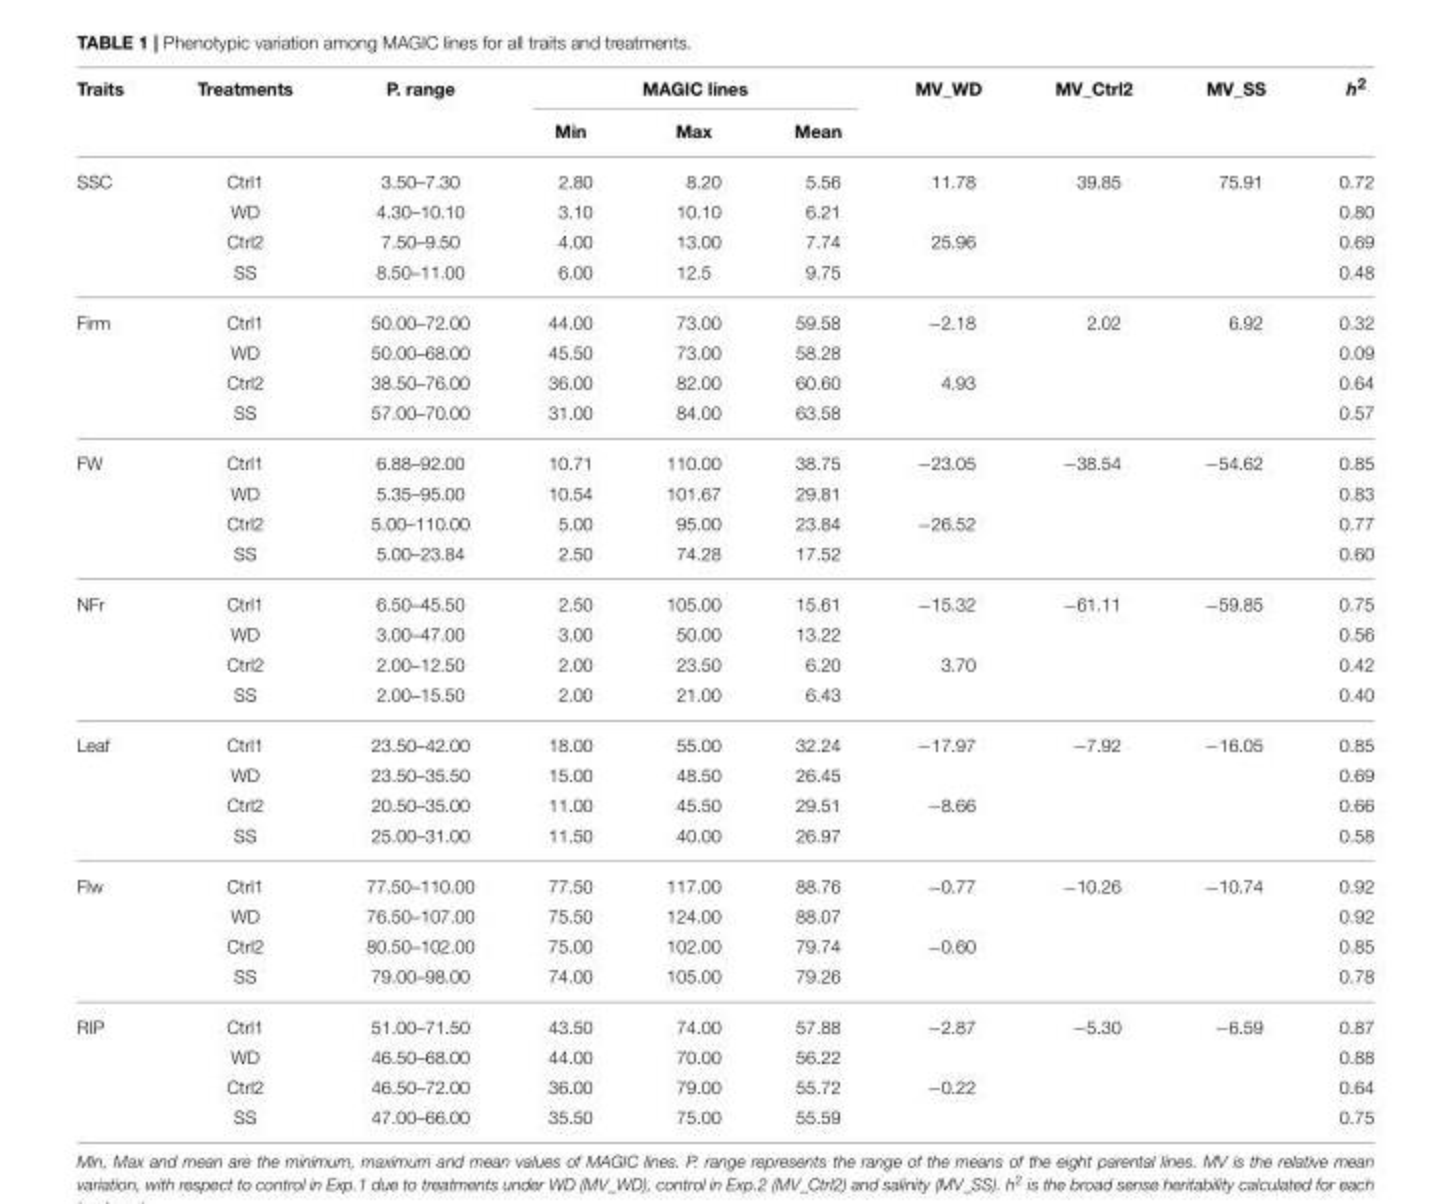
<table><thead><tr><td rowspan="2">Traits</td><td rowspan="2">Treatments</td><td rowspan="2">P. range</td><td colspan="3">MAGIC lines</td><td rowspan="2">MV_WD</td><td rowspan="2">MV_Ctrl2</td><td rowspan="2">MV_SS</td><td rowspan="2">h<sup>2</sup></td></tr><tr><td>Min</td><td>Max</td><td>Mean</td></tr></thead><tbody><tr><td rowspan="4">SSC</td><td>Ctrl1</td><td>3.50–7.30</td><td>2.80</td><td>8.20</td><td>5.56</td><td>11.78</td><td>39.85</td><td>75.91</td><td>0.72</td></tr><tr><td>WD</td><td>4.30–10.10</td><td>3.10</td><td>10.10</td><td>6.21</td><td></td><td></td><td></td><td>0.80</td></tr><tr><td>Ctrl2</td><td>7.50–9.50</td><td>4.00</td><td>13.00</td><td>7.74</td><td>25.96</td><td></td><td></td><td>0.69</td></tr><tr><td>SS</td><td>8.50–11.00</td><td>6.00</td><td>12.5</td><td>9.75</td><td></td><td></td><td></td><td>0.48</td></tr><tr><td rowspan="4">Firm</td><td>Ctrl1</td><td>50.00–72.00</td><td>44.00</td><td>73.00</td><td>59.58</td><td>−2.18</td><td>2.02</td><td>6.92</td><td>0.32</td></tr><tr><td>WD</td><td>50.00–68.00</td><td>45.50</td><td>73.00</td><td>58.28</td><td></td><td></td><td></td><td>0.09</td></tr><tr><td>Ctrl2</td><td>38.50–76.00</td><td>36.00</td><td>82.00</td><td>60.60</td><td>4.93</td><td></td><td></td><td>0.64</td></tr><tr><td>SS</td><td>57.00–70.00</td><td>31.00</td><td>84.00</td><td>63.58</td><td></td><td></td><td></td><td>0.57</td></tr><tr><td rowspan="4">FW</td><td>Ctrl1</td><td>6.88–92.00</td><td>10.71</td><td>110.00</td><td>38.75</td><td>−23.05</td><td>−38.54</td><td>−54.62</td><td>0.85</td></tr><tr><td>WD</td><td>5.35–95.00</td><td>10.54</td><td>101.67</td><td>29.81</td><td></td><td></td><td></td><td>0.83</td></tr><tr><td>Ctrl2</td><td>5.00–110.00</td><td>5.00</td><td>95.00</td><td>23.84</td><td>−26.52</td><td></td><td></td><td>0.77</td></tr><tr><td>SS</td><td>5.00–23.84</td><td>2.50</td><td>74.28</td><td>17.52</td><td></td><td></td><td></td><td>0.60</td></tr><tr><td rowspan="4">NFr</td><td>Ctrl1</td><td>6.50–45.50</td><td>2.50</td><td>105.00</td><td>15.61</td><td>−15.32</td><td>−61.11</td><td>−59.85</td><td>0.75</td></tr><tr><td>WD</td><td>3.00–47.00</td><td>3.00</td><td>50.00</td><td>13.22</td><td></td><td></td><td></td><td>0.56</td></tr><tr><td>Ctrl2</td><td>2.00–12.50</td><td>2.00</td><td>23.50</td><td>6.20</td><td>3.70</td><td></td><td></td><td>0.42</td></tr><tr><td>SS</td><td>2.00–15.50</td><td>2.00</td><td>21.00</td><td>6.43</td><td></td><td></td><td></td><td>0.40</td></tr><tr><td rowspan="4">Leaf</td><td>Ctrl1</td><td>23.50–42.00</td><td>18.00</td><td>55.00</td><td>32.24</td><td>−17.97</td><td>−7.92</td><td>−16.05</td><td>0.85</td></tr><tr><td>WD</td><td>23.50–35.50</td><td>15.00</td><td>48.50</td><td>26.45</td><td></td><td></td><td></td><td>0.69</td></tr><tr><td>Ctrl2</td><td>20.50–35.00</td><td>11.00</td><td>45.50</td><td>29.51</td><td>−8.66</td><td></td><td></td><td>0.66</td></tr><tr><td>SS</td><td>25.00–31.00</td><td>11.50</td><td>40.00</td><td>26.97</td><td></td><td></td><td></td><td>0.58</td></tr><tr><td rowspan="4">Flw</td><td>Ctrl1</td><td>77.50–110.00</td><td>77.50</td><td>117.00</td><td>88.76</td><td>−0.77</td><td>−10.26</td><td>−10.74</td><td>0.92</td></tr><tr><td>WD</td><td>76.50–107.00</td><td>75.50</td><td>124.00</td><td>88.07</td><td></td><td></td><td></td><td>0.92</td></tr><tr><td>Ctrl2</td><td>80.50–102.00</td><td>75.00</td><td>102.00</td><td>79.74</td><td>−0.60</td><td></td><td></td><td>0.85</td></tr><tr><td>SS</td><td>79.00–98.00</td><td>74.00</td><td>105.00</td><td>79.26</td><td></td><td></td><td></td><td>0.78</td></tr><tr><td rowspan="4">RIP</td><td>Ctrl1</td><td>51.00–71.50</td><td>43.50</td><td>74.00</td><td>57.88</td><td>−2.87</td><td>−5.30</td><td>−6.59</td><td>0.87</td></tr><tr><td>WD</td><td>46.50–68.00</td><td>44.00</td><td>70.00</td><td>56.22</td><td></td><td></td><td></td><td>0.88</td></tr><tr><td>Ctrl2</td><td>46.50–72.00</td><td>36.00</td><td>79.00</td><td>55.72</td><td>−0.22</td><td></td><td></td><td>0.64</td></tr><tr><td>SS</td><td>47.00–66.00</td><td>35.50</td><td>75.00</td><td>55.59</td><td></td><td></td><td></td><td>0.75</td></tr></tbody></table>